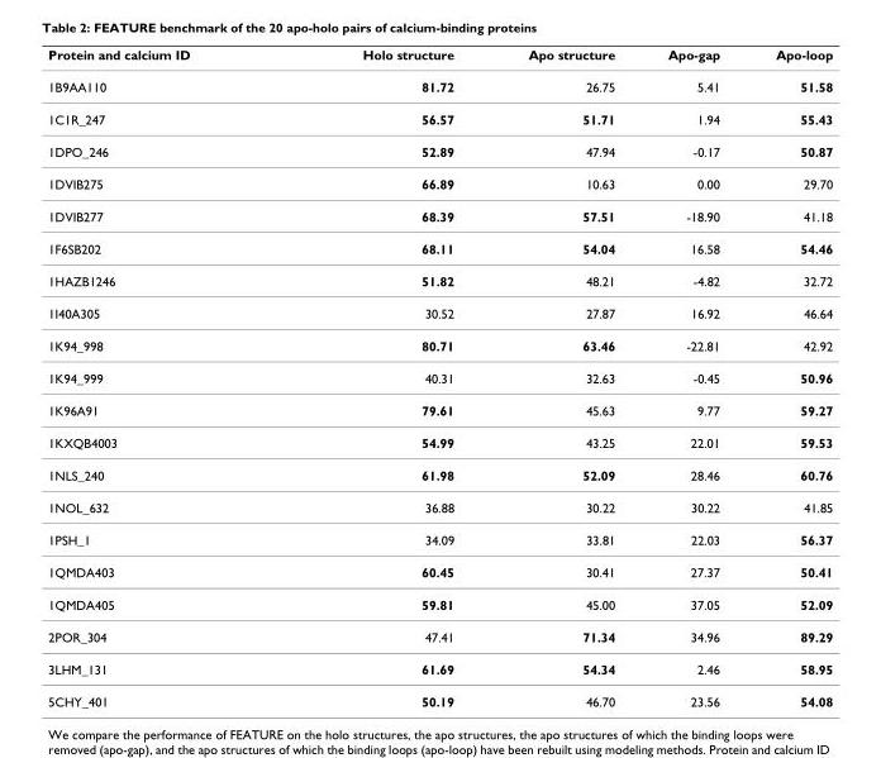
<table><thead><tr><td>Protein and calcium ID</td><td>Holo structure</td><td>Apo structure</td><td>Apo-gap</td><td>Apo-loop</td></tr></thead><tbody><tr><td>1B9AA110</td><td>81.72</td><td>26.75</td><td>5.41</td><td>51.58</td></tr><tr><td>1C1R_247</td><td>56.57</td><td>51.71</td><td>1.94</td><td>55.43</td></tr><tr><td>1DPO_246</td><td>52.89</td><td>47.94</td><td>-0.17</td><td>50.87</td></tr><tr><td>1DVIB275</td><td>66.89</td><td>10.63</td><td>0.00</td><td>29.70</td></tr><tr><td>1DVIB277</td><td>68.39</td><td>57.51</td><td>-18.90</td><td>41.18</td></tr><tr><td>1F6SB202</td><td>68.11</td><td>54.04</td><td>16.58</td><td>54.46</td></tr><tr><td>1HAZB1246</td><td>51.82</td><td>48.21</td><td>-4.82</td><td>32.72</td></tr><tr><td>1I40A305</td><td>30.52</td><td>27.87</td><td>16.92</td><td>46.64</td></tr><tr><td>1K94_998</td><td>80.71</td><td>63.46</td><td>-22.81</td><td>42.92</td></tr><tr><td>1K94_999</td><td>40.31</td><td>32.63</td><td>-0.45</td><td>50.96</td></tr><tr><td>1K96A91</td><td>79.61</td><td>45.63</td><td>9.77</td><td>59.27</td></tr><tr><td>1KXQB4003</td><td>54.99</td><td>43.25</td><td>22.01</td><td>59.53</td></tr><tr><td>1NLS_240</td><td>61.98</td><td>52.09</td><td>28.46</td><td>60.76</td></tr><tr><td>1NOL_632</td><td>36.88</td><td>30.22</td><td>30.22</td><td>41.85</td></tr><tr><td>1PSH_1</td><td>34.09</td><td>33.81</td><td>22.03</td><td>56.37</td></tr><tr><td>1QMDA403</td><td>60.45</td><td>30.41</td><td>27.37</td><td>50.41</td></tr><tr><td>1QMDA405</td><td>59.81</td><td>45.00</td><td>37.05</td><td>52.09</td></tr><tr><td>2POR_304</td><td>47.41</td><td>71.34</td><td>34.96</td><td>89.29</td></tr><tr><td>3LHM_131</td><td>61.69</td><td>54.34</td><td>2.46</td><td>58.95</td></tr><tr><td>5CHY_401</td><td>50.19</td><td>46.70</td><td>23.56</td><td>54.08</td></tr></tbody></table>